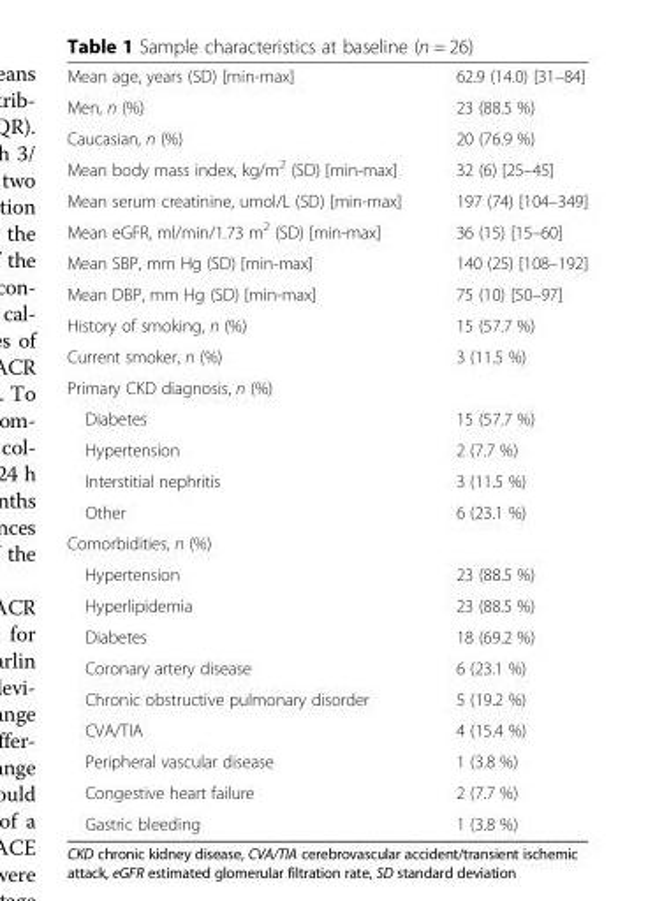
<table><tbody><tr><td>Mean age, years (SD) [min-max]</td><td>62.9 (14.0) [31–84]</td></tr><tr><td>Men, n (%)</td><td>23 (88.5 %)</td></tr><tr><td>Caucasian, n (%)</td><td>20 (76.9 %)</td></tr><tr><td>Mean body mass index, kg/m<sup>2</sup> (SD) [min-max]</td><td>32 (6) [25–45]</td></tr><tr><td>Mean serum creatinine, umol/L (SD) [min-max]</td><td>197 (74) [104–349]</td></tr><tr><td>Mean eGFR, ml/min/1.73 m<sup>2</sup> (SD) [min-max]</td><td>36 (15) [15–60]</td></tr><tr><td>Mean SBP, mm Hg (SD) [min-max]</td><td>140 (25) [108–192]</td></tr><tr><td>Mean DBP, mm Hg (SD) [min-max]</td><td>75 (10) [50–97]</td></tr><tr><td>History of smoking, n (%)</td><td>15 (57.7 %)</td></tr><tr><td>Current smoker, n (%)</td><td>3 (11.5 %)</td></tr><tr><td colspan="2">Primary CKD diagnosis, n (%)</td></tr><tr><td>Diabetes</td><td>15 (57.7 %)</td></tr><tr><td>Hypertension</td><td>2 (7.7 %)</td></tr><tr><td>Interstitial nephritis</td><td>3 (11.5 %)</td></tr><tr><td>Other</td><td>6 (23.1 %)</td></tr><tr><td colspan="2">Comorbidities, n (%)</td></tr><tr><td>Hypertension</td><td>23 (88.5 %)</td></tr><tr><td>Hyperlipidemia</td><td>23 (88.5 %)</td></tr><tr><td>Diabetes</td><td>18 (69.2 %)</td></tr><tr><td>Coronary artery disease</td><td>6 (23.1 %)</td></tr><tr><td>Chronic obstructive pulmonary disorder</td><td>5 (19.2 %)</td></tr><tr><td>CVA/TIA</td><td>4 (15.4 %)</td></tr><tr><td>Peripheral vascular disease</td><td>1 (3.8 %)</td></tr><tr><td>Congestive heart failure</td><td>2 (7.7 %)</td></tr><tr><td>Gastric bleeding</td><td>1 (3.8 %)</td></tr></tbody></table>